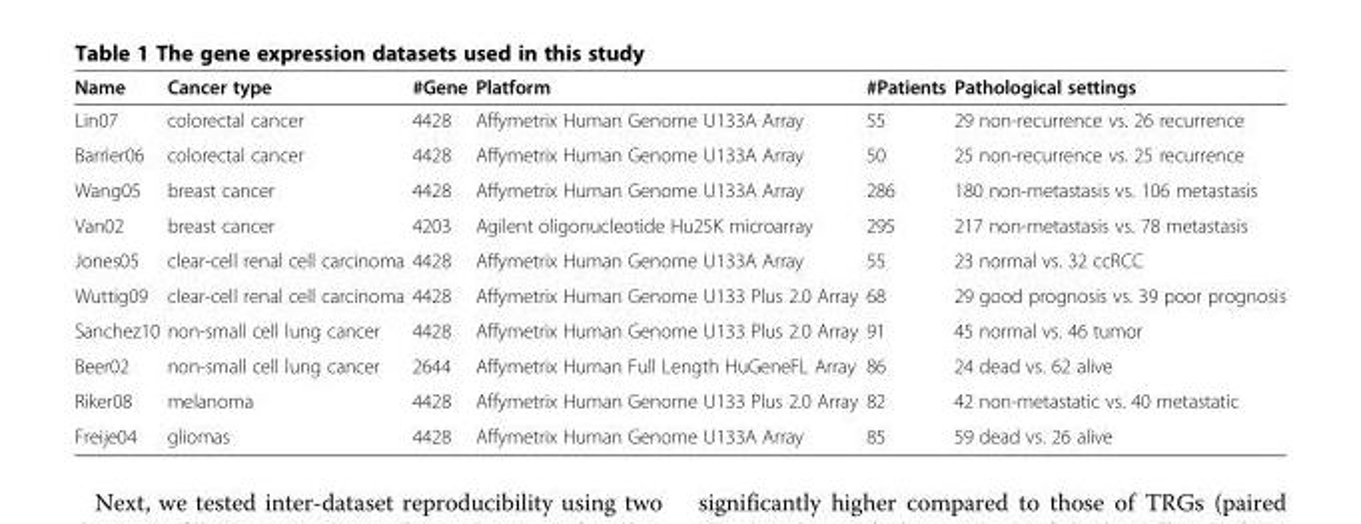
<table><thead><tr><td>Name</td><td>Cancer type</td><td>#Gene</td><td>Platform</td><td>#Patients</td><td>Pathological settings</td></tr></thead><tbody><tr><td>Lin07</td><td>colorectal cancer</td><td>4428</td><td>Affymetrix Human Genome U133A Array</td><td>55</td><td>29 non-recurrence vs. 26 recurrence</td></tr><tr><td>Barrier06</td><td>colorectal cancer</td><td>4428</td><td>Affymetrix Human Genome U133A Array</td><td>50</td><td>25 non-recurrence vs. 25 recurrence</td></tr><tr><td>Wang05</td><td>breast cancer</td><td>4428</td><td>Affymetrix Human Genome U133A Array</td><td>286</td><td>180 non-metastasis vs. 106 metastasis</td></tr><tr><td>Van02</td><td>breast cancer</td><td>4203</td><td>Agilent oligonucleotide Hu25K microarray</td><td>295</td><td>217 non-metastasis vs. 78 metastasis</td></tr><tr><td>Jones05</td><td>clear-cell renal cell carcinoma</td><td>4428</td><td>Affymetrix Human Genome U133A Array</td><td>55</td><td>23 normal vs. 32 ccRCC</td></tr><tr><td>Wuttig09</td><td>clear-cell renal cell carcinoma</td><td>4428</td><td>Affymetrix Human Genome U133 Plus 2.0 Array</td><td>68</td><td>29 good prognosis vs. 39 poor prognosis</td></tr><tr><td>Sanchez10</td><td>non-small cell lung cancer</td><td>4428</td><td>Affymetrix Human Genome U133 Plus 2.0 Array</td><td>91</td><td>45 normal vs. 46 tumor</td></tr><tr><td>Beer02</td><td>non-small cell lung cancer</td><td>2644</td><td>Affymetrix Human Full Length HuGeneFL Array</td><td>86</td><td>24 dead vs. 62 alive</td></tr><tr><td>Riker08</td><td>melanoma</td><td>4428</td><td>Affymetrix Human Genome U133 Plus 2.0 Array</td><td>82</td><td>42 non-metastatic vs. 40 metastatic</td></tr><tr><td>Freije04</td><td>gliomas</td><td>4428</td><td>Affymetrix Human Genome U133A Array</td><td>85</td><td>59 dead vs. 26 alive</td></tr></tbody></table>